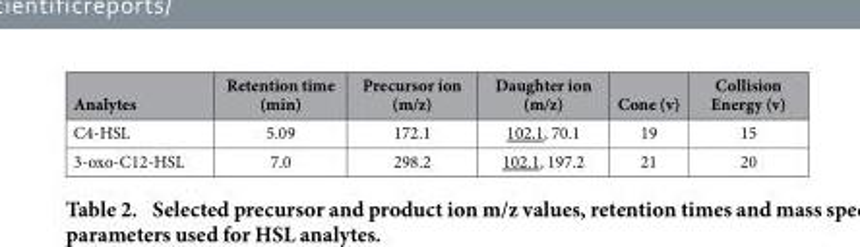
<table><thead><tr><td>Analytes</td><td>Retention time (min)</td><td>Precursor ion (m/z)</td><td>Daughter ion (m/z)</td><td>Cone (v)</td><td>Collision Energy (v)</td></tr></thead><tbody><tr><td>C4-HSL</td><td>5.09</td><td>172.1</td><td>102.1, 70.1</td><td>19</td><td>15</td></tr><tr><td>3-oxo-C12-HSL</td><td>7.0</td><td>298.2</td><td>102.1, 197.2</td><td>21</td><td>20</td></tr></tbody></table>